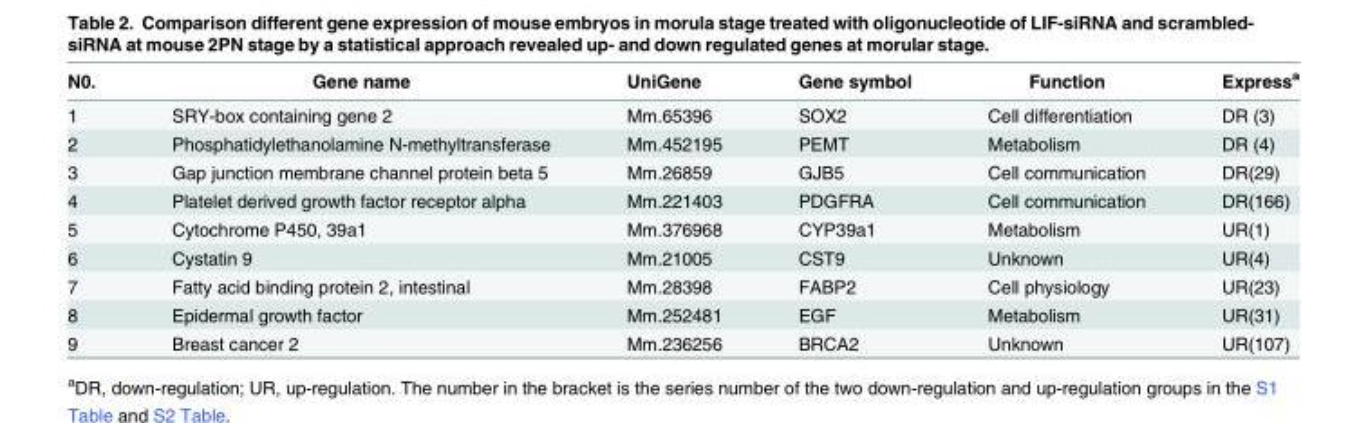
<table><thead><tr><td>N0.</td><td>Gene name</td><td>UniGene</td><td>Gene symbol</td><td>Function</td><td>Express<sup>a</sup></td></tr></thead><tbody><tr><td>1</td><td>SRY-box containing gene 2</td><td>Mm.65396</td><td>SOX2</td><td>Cell differentiation</td><td>DR (3)</td></tr><tr><td>2</td><td>Phosphatidylethanolamine N-methyltransferase</td><td>Mm.452195</td><td>PEMT</td><td>Metabolism</td><td>DR (4)</td></tr><tr><td>3</td><td>Gap junction membrane channel protein beta 5</td><td>Mm.26859</td><td>GJB5</td><td>Cell communication</td><td>DR(29)</td></tr><tr><td>4</td><td>Platelet derived growth factor receptor alpha</td><td>Mm.221403</td><td>PDGFRA</td><td>Cell communication</td><td>DR(166)</td></tr><tr><td>5</td><td>Cytochrome P450, 39a1</td><td>Mm.376968</td><td>CYP39a1</td><td>Metabolism</td><td>UR(1)</td></tr><tr><td>6</td><td>Cystatin 9</td><td>Mm.21005</td><td>CST9</td><td>Unknown</td><td>UR(4)</td></tr><tr><td>7</td><td>Fatty acid binding protein 2, intestinal</td><td>Mm.28398</td><td>FABP2</td><td>Cell physiology</td><td>UR(23)</td></tr><tr><td>8</td><td>Epidermal growth factor</td><td>Mm.252481</td><td>EGF</td><td>Metabolism</td><td>UR(31)</td></tr><tr><td>9</td><td>Breast cancer 2</td><td>Mm.236256</td><td>BRCA2</td><td>Unknown</td><td>UR(107)</td></tr></tbody></table>